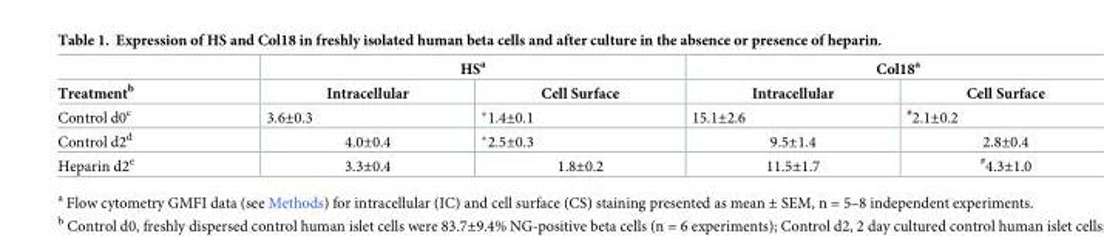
<table><thead><tr><td rowspan="2">Treatment<sup>b</sup></td><td colspan="2">HS<sup>a</sup></td><td colspan="2">Col18<sup>a</sup></td></tr><tr><td>Intracellular</td><td>Cell Surface</td><td>Intracellular</td><td>Cell Surface</td></tr></thead><tbody><tr><td>Control d0<sup>c</sup></td><td>3.6±0.3</td><td>*1.4±0.1</td><td>15.1±2.6</td><td><sup>#</sup>2.1±0.2</td></tr><tr><td>Control d2<sup>d</sup></td><td>4.0±0.4</td><td>*2.5±0.3</td><td>9.5±1.4</td><td>2.8±0.4</td></tr><tr><td>Heparin d2<sup>e</sup></td><td>3.3±0.4</td><td>1.8±0.2</td><td>11.5±1.7</td><td><sup>#</sup>4.3±1.0</td></tr></tbody></table>